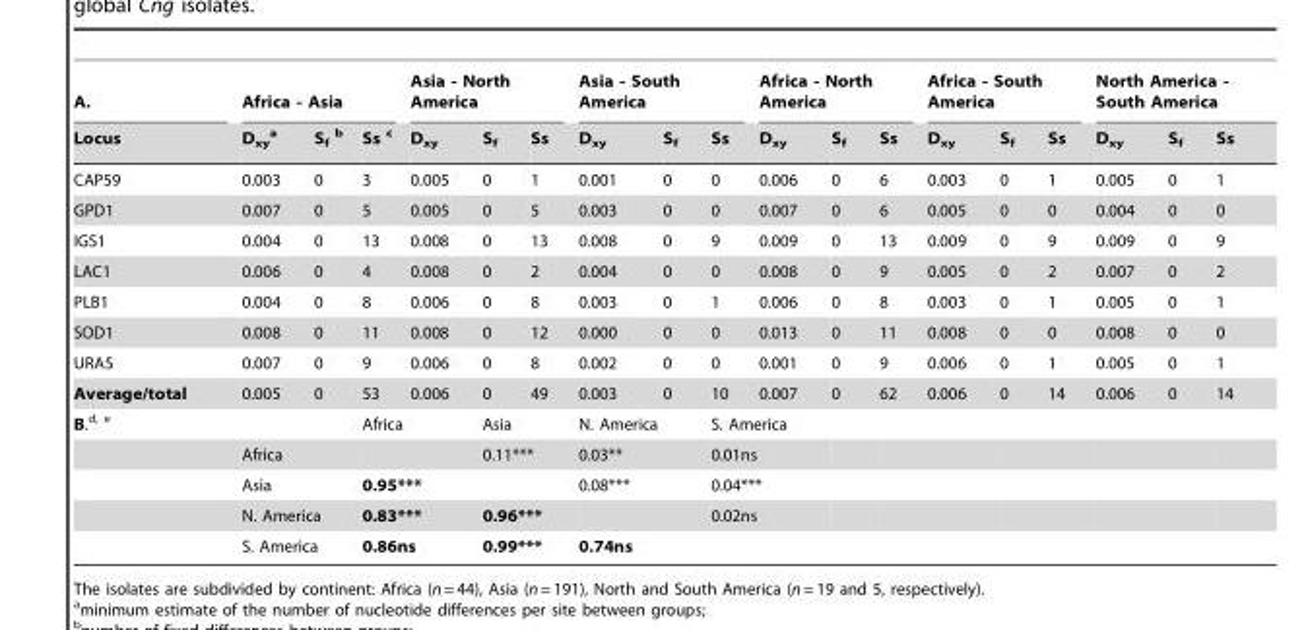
<table><thead><tr><td rowspan="2">A. Locus</td><td colspan="3">Africa - Asia</td><td colspan="3">Asia - North America</td><td colspan="3">Asia - South America</td><td colspan="3">Africa - North America</td><td colspan="3">Africa - South America</td><td colspan="3">North America - South America</td></tr><tr><td>D<sub>xy</sub> a</td><td>S<sub>f</sub> b</td><td>Ss c</td><td>D<sub>xy</sub></td><td>S<sub>f</sub></td><td>Ss</td><td>D<sub>xy</sub></td><td>S<sub>f</sub></td><td>Ss</td><td>D<sub>xy</sub></td><td>S<sub>f</sub></td><td>Ss</td><td>D<sub>xy</sub></td><td>S<sub>f</sub></td><td>Ss</td><td>D<sub>xy</sub></td><td>S<sub>f</sub></td><td>Ss</td></tr></thead><tbody><tr><td>CAP59</td><td>0.003</td><td>0</td><td>3</td><td>0.005</td><td>0</td><td>1</td><td>0.001</td><td>0</td><td>0</td><td>0.006</td><td>0</td><td>6</td><td>0.003</td><td>0</td><td>1</td><td>0.005</td><td>0</td><td>1</td></tr><tr><td>GPD1</td><td>0.007</td><td>0</td><td>5</td><td>0.005</td><td>0</td><td>5</td><td>0.003</td><td>0</td><td>0</td><td>0.007</td><td>0</td><td>6</td><td>0.005</td><td>0</td><td>0</td><td>0.004</td><td>0</td><td>0</td></tr><tr><td>IGS1</td><td>0.004</td><td>0</td><td>13</td><td>0.008</td><td>0</td><td>13</td><td>0.008</td><td>0</td><td>9</td><td>0.009</td><td>0</td><td>13</td><td>0.009</td><td>0</td><td>9</td><td>0.009</td><td>0</td><td>9</td></tr><tr><td>LAC1</td><td>0.006</td><td>0</td><td>4</td><td>0.008</td><td>0</td><td>2</td><td>0.004</td><td>0</td><td>0</td><td>0.008</td><td>0</td><td>9</td><td>0.005</td><td>0</td><td>2</td><td>0.007</td><td>0</td><td>2</td></tr><tr><td>PLB1</td><td>0.004</td><td>0</td><td>8</td><td>0.006</td><td>0</td><td>8</td><td>0.003</td><td>0</td><td>1</td><td>0.006</td><td>0</td><td>8</td><td>0.003</td><td>0</td><td>1</td><td>0.005</td><td>0</td><td>1</td></tr><tr><td>SOD1</td><td>0.008</td><td>0</td><td>11</td><td>0.008</td><td>0</td><td>12</td><td>0.000</td><td>0</td><td>0</td><td>0.013</td><td>0</td><td>11</td><td>0.008</td><td>0</td><td>0</td><td>0.008</td><td>0</td><td>0</td></tr><tr><td>URA5</td><td>0.007</td><td>0</td><td>9</td><td>0.006</td><td>0</td><td>8</td><td>0.002</td><td>0</td><td>0</td><td>0.001</td><td>0</td><td>9</td><td>0.006</td><td>0</td><td>1</td><td>0.005</td><td>0</td><td>1</td></tr><tr><td>Average/total</td><td>0.005</td><td>0</td><td>53</td><td>0.006</td><td>0</td><td>49</td><td>0.003</td><td>0</td><td>10</td><td>0.007</td><td>0</td><td>62</td><td>0.006</td><td>0</td><td>14</td><td>0.006</td><td>0</td><td>14</td></tr><tr><td rowspan="5">B.<sup>d,</sup> e</td><td></td><td></td><td colspan="2">Africa</td><td colspan="2">Asia</td><td colspan="2">N. America</td><td colspan="2">S. America</td><td></td><td></td><td></td><td></td><td></td><td></td><td></td><td></td></tr><tr><td colspan="2">Africa</td><td colspan="2"></td><td colspan="2">0.11***</td><td colspan="2">0.03**</td><td colspan="2">0.01ns</td><td></td><td></td><td></td><td></td><td></td><td></td><td></td><td></td></tr><tr><td colspan="2">Asia</td><td colspan="2">0.95***</td><td colspan="2"></td><td colspan="2">0.08***</td><td colspan="2">0.04***</td><td></td><td></td><td></td><td></td><td></td><td></td><td></td><td></td></tr><tr><td colspan="2">N. America</td><td colspan="2">0.83***</td><td colspan="2">0.96***</td><td colspan="2"></td><td colspan="2">0.02ns</td><td></td><td></td><td></td><td></td><td></td><td></td><td></td><td></td></tr><tr><td colspan="2">S. America</td><td colspan="2">0.86ns</td><td colspan="2">0.99***</td><td colspan="2">0.74ns</td><td colspan="2"></td><td></td><td></td><td></td><td></td><td></td><td></td><td></td><td></td></tr></tbody></table>